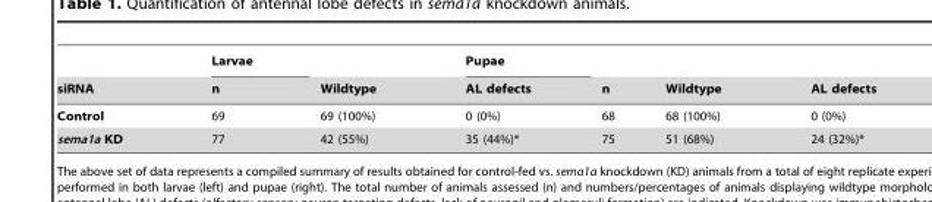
<table><thead><tr><td rowspan="2">siRNA</td><td rowspan="2">Larvae n</td><td rowspan="2">Wildtype</td><td rowspan="2">Pupae AL defects</td><td rowspan="2">n</td><td rowspan="2">Wildtype</td><td rowspan="2">AL defects</td></tr><tr></tr></thead><tbody><tr><td>Control</td><td>69</td><td>69 (100%)</td><td>0 (0%)</td><td>68</td><td>68 (100%)</td><td>0 (0%)</td></tr><tr><td>sema1a KD</td><td>77</td><td>42 (55%)</td><td>35 (44%)*</td><td>75</td><td>51 (68%)</td><td>24 (32%)*</td></tr></tbody></table>